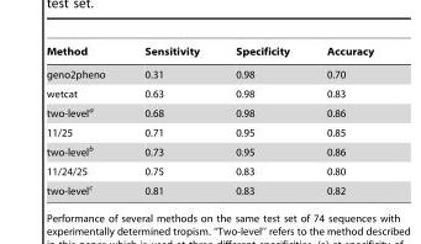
<table><thead><tr><td>Method</td><td>Sensitivity</td><td>Specificity</td><td>Accuracy</td></tr></thead><tbody><tr><td>geno2pheno</td><td>0.31</td><td>0.98</td><td>0.70</td></tr><tr><td>wetcat</td><td>0.63</td><td>0.98</td><td>0.83</td></tr><tr><td>two-level<sup>a</sup></td><td>0.68</td><td>0.98</td><td>0.86</td></tr><tr><td>11/25</td><td>0.71</td><td>0.95</td><td>0.85</td></tr><tr><td>two-level<sup>b</sup></td><td>0.73</td><td>0.95</td><td>0.86</td></tr><tr><td>11/24/25</td><td>0.75</td><td>0.83</td><td>0.80</td></tr><tr><td>two-level<sup>c</sup></td><td>0.81</td><td>0.83</td><td>0.82</td></tr></tbody></table>